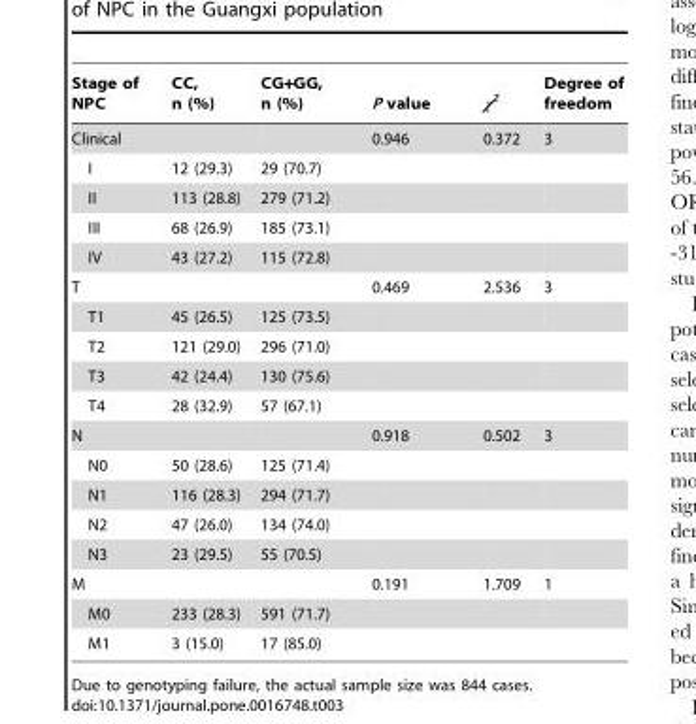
<table><thead><tr><td>Stage of NPC</td><td>CC, n (%)</td><td>CG+GG, n (%)</td><td>P value</td><td>χ<sup>2</sup></td><td>Degree of freedom</td></tr></thead><tbody><tr><td>Clinical</td><td></td><td></td><td>0.946</td><td>0.372</td><td>3</td></tr><tr><td>I</td><td>12 (29.3)</td><td>29 (70.7)</td><td></td><td></td><td></td></tr><tr><td>II</td><td>113 (28.8)</td><td>279 (71.2)</td><td></td><td></td><td></td></tr><tr><td>III</td><td>68 (26.9)</td><td>185 (73.1)</td><td></td><td></td><td></td></tr><tr><td>IV</td><td>43 (27.2)</td><td>115 (72.8)</td><td></td><td></td><td></td></tr><tr><td>T</td><td></td><td></td><td>0.469</td><td>2.536</td><td>3</td></tr><tr><td>T1</td><td>45 (26.5)</td><td>125 (73.5)</td><td></td><td></td><td></td></tr><tr><td>T2</td><td>121 (29.0)</td><td>296 (71.0)</td><td></td><td></td><td></td></tr><tr><td>T3</td><td>42 (24.4)</td><td>130 (75.6)</td><td></td><td></td><td></td></tr><tr><td>T4</td><td>28 (32.9)</td><td>57 (67.1)</td><td></td><td></td><td></td></tr><tr><td>N</td><td></td><td></td><td>0.918</td><td>0.502</td><td>3</td></tr><tr><td>N0</td><td>50 (28.6)</td><td>125 (71.4)</td><td></td><td></td><td></td></tr><tr><td>N1</td><td>116 (28.3)</td><td>294 (71.7)</td><td></td><td></td><td></td></tr><tr><td>N2</td><td>47 (26.0)</td><td>134 (74.0)</td><td></td><td></td><td></td></tr><tr><td>N3</td><td>23 (29.5)</td><td>55 (70.5)</td><td></td><td></td><td></td></tr><tr><td>M</td><td></td><td></td><td>0.191</td><td>1.709</td><td>1</td></tr><tr><td>M0</td><td>233 (28.3)</td><td>591 (71.7)</td><td></td><td></td><td></td></tr><tr><td>M1</td><td>3 (15.0)</td><td>17 (85.0)</td><td></td><td></td><td></td></tr></tbody></table>